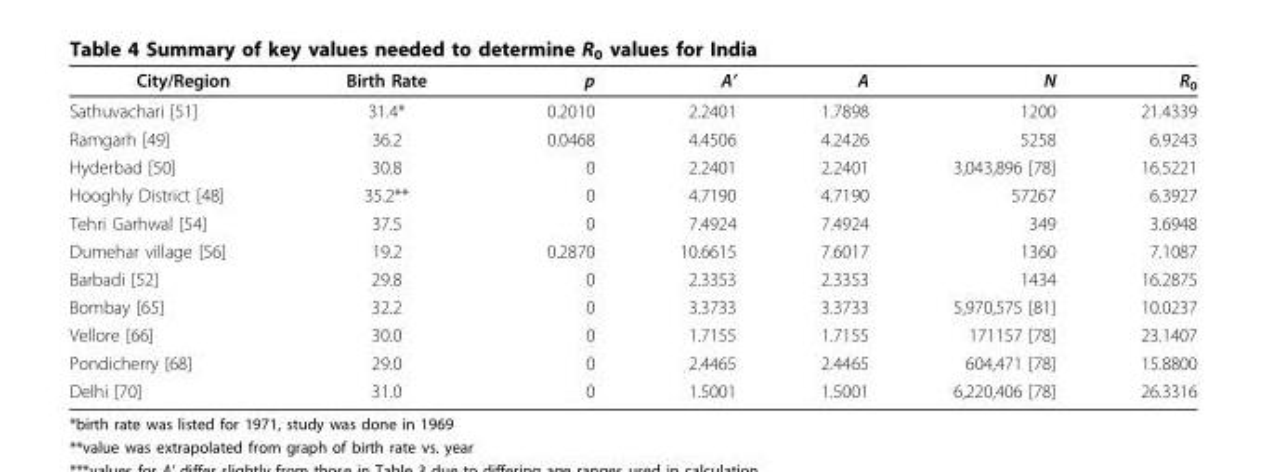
<table><thead><tr><td>City/Region</td><td>Birth Rate</td><td>p</td><td>A’</td><td>A</td><td>N</td><td>R<sub>0</sub></td></tr></thead><tbody><tr><td>Sathuvachari [51]</td><td>31.4*</td><td>0.2010</td><td>2.2401</td><td>1.7898</td><td>1200</td><td>21.4339</td></tr><tr><td>Ramgarh [49]</td><td>36.2</td><td>0.0468</td><td>4.4506</td><td>4.2426</td><td>5258</td><td>6.9243</td></tr><tr><td>Hyderbad [50]</td><td>30.8</td><td>0</td><td>2.2401</td><td>2.2401</td><td>3,043,896 [78]</td><td>16.5221</td></tr><tr><td>Hooghly District [48]</td><td>35.2**</td><td>0</td><td>4.7190</td><td>4.7190</td><td>57267</td><td>6.3927</td></tr><tr><td>Tehri Garhwal [54]</td><td>37.5</td><td>0</td><td>7.4924</td><td>7.4924</td><td>349</td><td>3.6948</td></tr><tr><td>Dumehar village [56]</td><td>19.2</td><td>0.2870</td><td>10.6615</td><td>7.6017</td><td>1360</td><td>7.1087</td></tr><tr><td>Barbadi [52]</td><td>29.8</td><td>0</td><td>2.3353</td><td>2.3353</td><td>1434</td><td>16.2875</td></tr><tr><td>Bombay [65]</td><td>32.2</td><td>0</td><td>3.3733</td><td>3.3733</td><td>5,970,575 [81]</td><td>10.0237</td></tr><tr><td>Vellore [66]</td><td>30.0</td><td>0</td><td>1.7155</td><td>1.7155</td><td>171157 [78]</td><td>23.1407</td></tr><tr><td>Pondicherry [68]</td><td>29.0</td><td>0</td><td>2.4465</td><td>2.4465</td><td>604,471 [78]</td><td>15.8800</td></tr><tr><td>Delhi [70]</td><td>31.0</td><td>0</td><td>1.5001</td><td>1.5001</td><td>6,220,406 [78]</td><td>26.3316</td></tr></tbody></table>